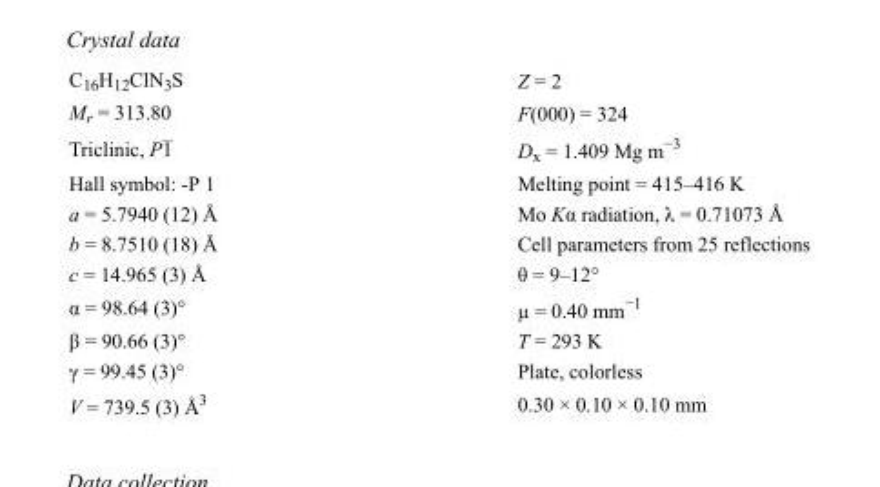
<table><tbody><tr><td>C<sub>16</sub>H<sub>12</sub>ClN<sub>3</sub>S</td><td>Z = 2</td></tr><tr><td>M<sub>r</sub> = 313.80</td><td>F(000) = 324</td></tr><tr><td>Triclinic, P1</td><td>D<sub>x</sub> = 1.409 Mg m<sup>−3</sup></td></tr><tr><td>Hall symbol: -P 1</td><td>Melting point = 415–416 K</td></tr><tr><td>a = 5.7940 (12) Å</td><td>Mo Kα radiation, λ = 0.71073 Å</td></tr><tr><td>b = 8.7510 (18) Å</td><td>Cell parameters from 25 reflections</td></tr><tr><td>c = 14.965 (3) Å</td><td>θ = 9–12°</td></tr><tr><td>α = 98.64 (3)°</td><td>µ = 0.40 mm<sup>−1</sup></td></tr><tr><td>β = 90.66 (3)°</td><td>T = 293 K</td></tr><tr><td>γ = 99.45 (3)°</td><td>Plate, colorless</td></tr><tr><td>V = 739.5 (3) Å<sup>3</sup></td><td>0.30 × 0.10 × 0.10 mm</td></tr></tbody></table>